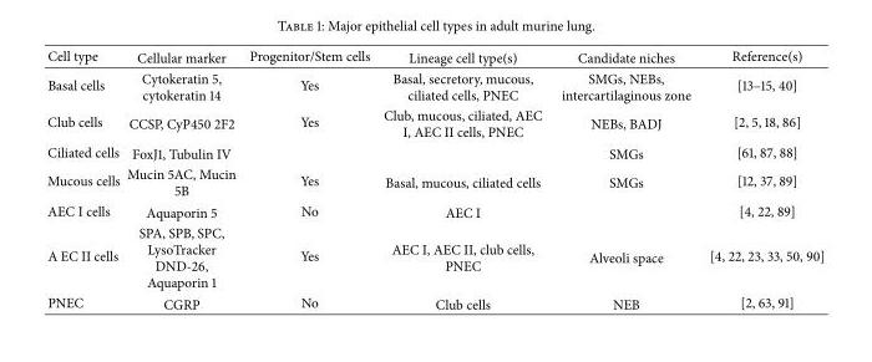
<table><thead><tr><td>Cell type</td><td>Cellular marker</td><td>Progenitor/Stem cells</td><td>Lineage cell type(s)</td><td>Candidate niches</td><td>Reference(s)</td></tr></thead><tbody><tr><td>Basal cells</td><td>Cytokeratin 5, cytokeratin 14</td><td>Yes</td><td>Basal, secretory, mucous, ciliated cells, PNEC</td><td>SMGs, NEBs, intercartilaginous zone</td><td>[13–15, 40]</td></tr><tr><td>Club cells</td><td>CCSP, CyP450 2F2</td><td>Yes</td><td>Club, mucous, ciliated, AEC I, AEC II cells, PNEC</td><td>NEBs, BADJ</td><td>[2, 5, 18, 86]</td></tr><tr><td>Ciliated cells</td><td>FoxJ1, Tubulin IV</td><td></td><td></td><td>SMGs</td><td>[61, 87, 88]</td></tr><tr><td>Mucous cells</td><td>Mucin 5AC, Mucin 5B</td><td>Yes</td><td>Basal, mucous, ciliated cells</td><td>SMGs</td><td>[12, 37, 89]</td></tr><tr><td>AEC I cells</td><td>Aquaporin 5</td><td>No</td><td>AEC I</td><td></td><td>[4, 22, 89]</td></tr><tr><td>A EC II cells</td><td>SPA, SPB, SPC, LysoTracker DND-26, Aquaporin 1</td><td>Yes</td><td>AEC I, AEC II, club cells, PNEC</td><td>Alveoli space</td><td>[4, 22, 23, 33, 50, 90]</td></tr><tr><td>PNEC</td><td>CGRP</td><td>No</td><td>Club cells</td><td>NEB</td><td>[2, 63, 91]</td></tr></tbody></table>